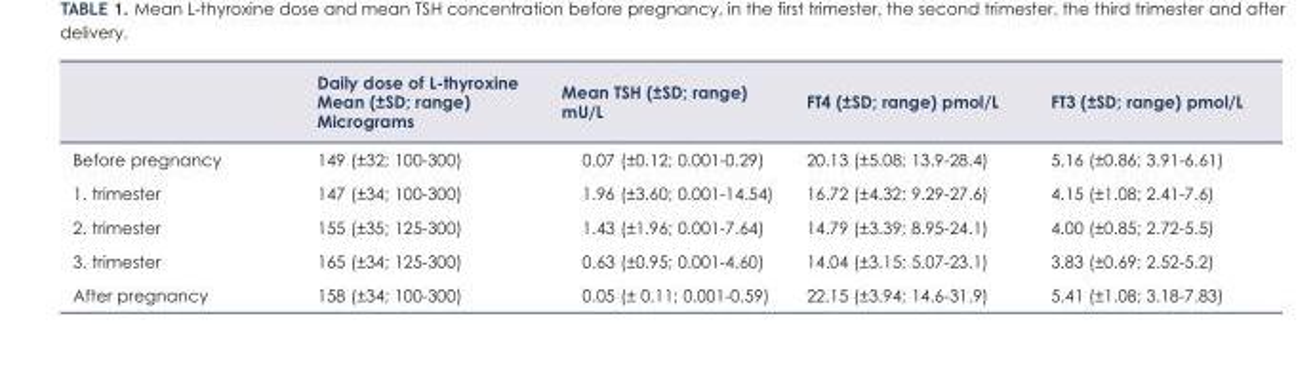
<table><thead><tr><td></td><td>Daily dose of L-thyroxine Mean (±SD; range) Micrograms</td><td>Mean TSH (±SD; range) mU/L</td><td>FT4 (±SD; range) pmol/L</td><td>FT3 (±SD; range) pmol/L</td></tr></thead><tbody><tr><td>Before pregnancy</td><td>149 (±32; 100-300)</td><td>0.07 (±0.12; 0.001-0.29)</td><td>20.13 (±5.08; 13.9-28.4)</td><td>5.16 (±0.86; 3.91-6.61)</td></tr><tr><td>1. trimester</td><td>147 (±34; 100-300)</td><td>1.96 (±3.60; 0.001-14.54)</td><td>16.72 (±4.32; 9.29-27.6)</td><td>4.15 (±1.08; 2.41-7.6)</td></tr><tr><td>2. trimester</td><td>155 (±35; 125-300)</td><td>1.43 (±1.96; 0.001-7.64)</td><td>14.79 (±3.39; 8.95-24.1)</td><td>4.00 (±0.85; 2.72-5.5)</td></tr><tr><td>3. trimester</td><td>165 (±34; 125-300)</td><td>0.63 (±0.95; 0.001-4.60)</td><td>14.04 (±3.15; 5.07-23.1)</td><td>3.83 (±0.69; 2.52-5.2)</td></tr><tr><td>After pregnancy</td><td>158 (±34; 100-300)</td><td>0.05 (± 0.11; 0.001-0.59)</td><td>22.15 (±3.94; 14.6-31.9)</td><td>5.41 (±1.08; 3.18-7.83)</td></tr></tbody></table>